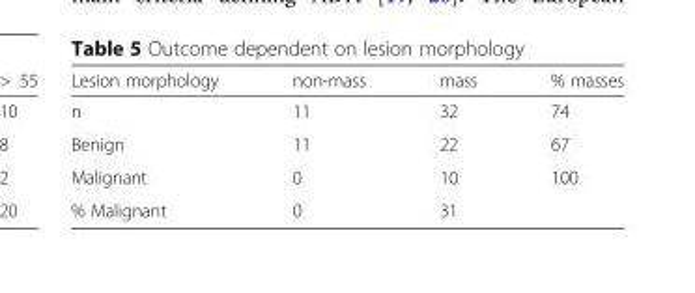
<table><thead><tr><td>Lesion morphology</td><td>non-mass</td><td>mass</td><td>% masses</td></tr></thead><tbody><tr><td>n</td><td>11</td><td>32</td><td>74</td></tr><tr><td>Benign</td><td>11</td><td>22</td><td>67</td></tr><tr><td>Malignant</td><td>0</td><td>10</td><td>100</td></tr><tr><td>% Malignant</td><td>0</td><td>31</td><td></td></tr></tbody></table>